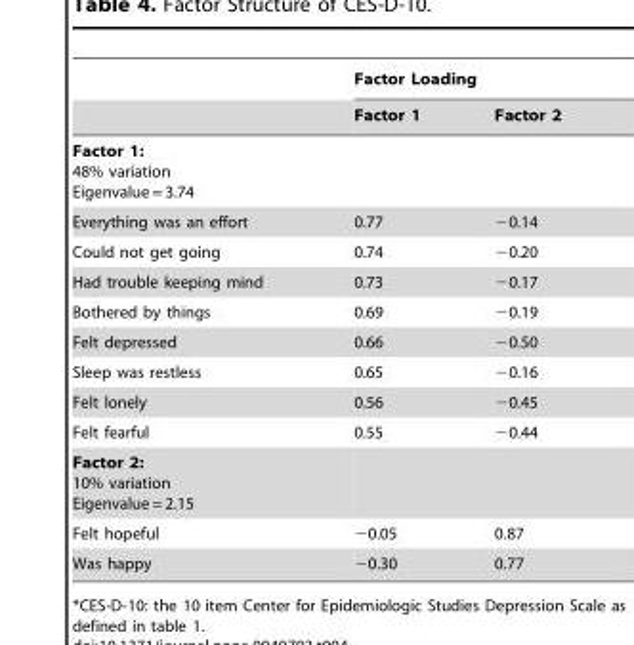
<table><thead><tr><td rowspan="2"></td><td colspan="2">Factor Loading</td></tr><tr><td>Factor 1</td><td>Factor 2</td></tr></thead><tbody><tr><td colspan="3">Factor 1: 48% variation Eigenvalue = 3.74</td></tr><tr><td>Everything was an effort</td><td>0.77</td><td>−0.14</td></tr><tr><td>Could not get going</td><td>0.74</td><td>−0.20</td></tr><tr><td>Had trouble keeping mind</td><td>0.73</td><td>−0.17</td></tr><tr><td>Bothered by things</td><td>0.69</td><td>−0.19</td></tr><tr><td>Felt depressed</td><td>0.66</td><td>−0.50</td></tr><tr><td>Sleep was restless</td><td>0.65</td><td>−0.16</td></tr><tr><td>Felt lonely</td><td>0.56</td><td>−0.45</td></tr><tr><td>Felt fearful</td><td>0.55</td><td>−0.44</td></tr><tr><td colspan="3">Factor 2: 10% variation Eigenvalue = 2.15</td></tr><tr><td>Felt hopeful</td><td>−0.05</td><td>0.87</td></tr><tr><td>Was happy</td><td>−0.30</td><td>0.77</td></tr></tbody></table>